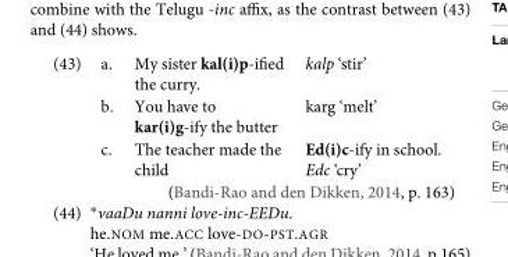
<table><tbody><tr><td rowspan="4">(43)</td><td>a.</td><td>My sister kal(i)p-ified the curry.</td><td>kalp ‘stir’</td></tr><tr><td>b.</td><td>You have to kar(i)g-ify the butter</td><td>karg ‘melt’</td></tr><tr><td>c.</td><td>The teacher made the child</td><td>Ed(i)c-ify in school. Edc ‘cry’</td></tr><tr><td></td><td colspan="2">(Bandi-Rao and den Dikken, 2014, p. 163)</td></tr></tbody></table>